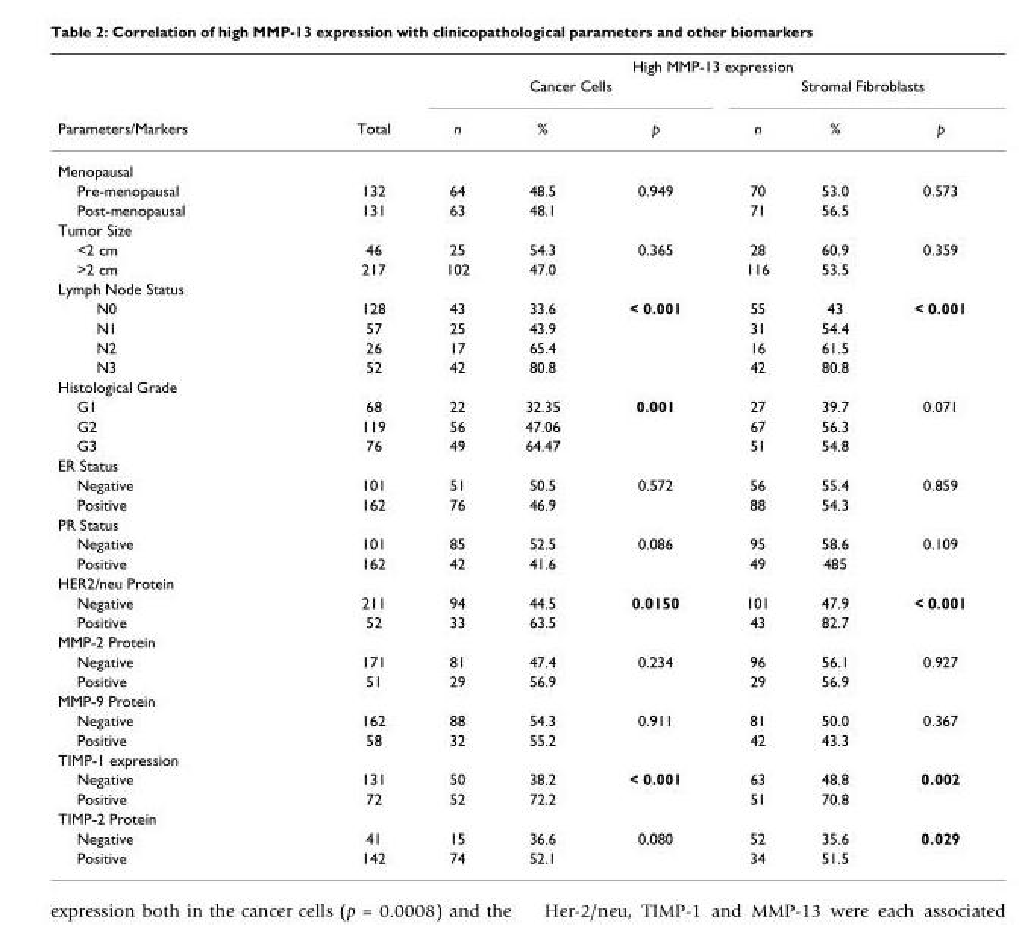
<table><thead><tr><td rowspan="3">Parameters/Markers</td><td rowspan="3">Total</td><td colspan="6">High MMP-13 expression</td></tr><tr><td colspan="3">Cancer Cells</td><td colspan="3">Stromal Fibroblasts</td></tr><tr><td>n</td><td>%</td><td>p</td><td>n</td><td>%</td><td>p</td></tr></thead><tbody><tr><td colspan="8">Menopausal</td></tr><tr><td>Pre-menopausal</td><td>132</td><td>64</td><td>48.5</td><td>0.949</td><td>70</td><td>53.0</td><td>0.573</td></tr><tr><td>Post-menopausal</td><td>131</td><td>63</td><td>48.1</td><td></td><td>71</td><td>56.5</td><td></td></tr><tr><td colspan="8">Tumor Size</td></tr><tr><td>&lt;2 cm</td><td>46</td><td>25</td><td>54.3</td><td>0.365</td><td>28</td><td>60.9</td><td>0.359</td></tr><tr><td>&gt;2 cm</td><td>217</td><td>102</td><td>47.0</td><td></td><td>116</td><td>53.5</td><td></td></tr><tr><td colspan="8">Lymph Node Status</td></tr><tr><td>N0</td><td>128</td><td>43</td><td>33.6</td><td>&lt; 0.001</td><td>55</td><td>43</td><td>&lt; 0.001</td></tr><tr><td>N1</td><td>57</td><td>25</td><td>43.9</td><td></td><td>31</td><td>54.4</td><td></td></tr><tr><td>N2</td><td>26</td><td>17</td><td>65.4</td><td></td><td>16</td><td>61.5</td><td></td></tr><tr><td>N3</td><td>52</td><td>42</td><td>80.8</td><td></td><td>42</td><td>80.8</td><td></td></tr><tr><td colspan="8">Histological Grade</td></tr><tr><td>G1</td><td>68</td><td>22</td><td>32.35</td><td>0.001</td><td>27</td><td>39.7</td><td>0.071</td></tr><tr><td>G2</td><td>119</td><td>56</td><td>47.06</td><td></td><td>67</td><td>56.3</td><td></td></tr><tr><td>G3</td><td>76</td><td>49</td><td>64.47</td><td></td><td>51</td><td>54.8</td><td></td></tr><tr><td colspan="8">ER Status</td></tr><tr><td>Negative</td><td>101</td><td>51</td><td>50.5</td><td>0.572</td><td>56</td><td>55.4</td><td>0.859</td></tr><tr><td>Positive</td><td>162</td><td>76</td><td>46.9</td><td></td><td>88</td><td>54.3</td><td></td></tr><tr><td colspan="8">PR Status</td></tr><tr><td>Negative</td><td>101</td><td>85</td><td>52.5</td><td>0.086</td><td>95</td><td>58.6</td><td>0.109</td></tr><tr><td>Positive</td><td>162</td><td>42</td><td>41.6</td><td></td><td>49</td><td>485</td><td></td></tr><tr><td colspan="8">HER2/neu Protein</td></tr><tr><td>Negative</td><td>211</td><td>94</td><td>44.5</td><td>0.0150</td><td>101</td><td>47.9</td><td>&lt; 0.001</td></tr><tr><td>Positive</td><td>52</td><td>33</td><td>63.5</td><td></td><td>43</td><td>82.7</td><td></td></tr><tr><td colspan="8">MMP-2 Protein</td></tr><tr><td>Negative</td><td>171</td><td>81</td><td>47.4</td><td>0.234</td><td>96</td><td>56.1</td><td>0.927</td></tr><tr><td>Positive</td><td>51</td><td>29</td><td>56.9</td><td></td><td>29</td><td>56.9</td><td></td></tr><tr><td colspan="8">MMP-9 Protein</td></tr><tr><td>Negative</td><td>162</td><td>88</td><td>54.3</td><td>0.911</td><td>81</td><td>50.0</td><td>0.367</td></tr><tr><td>Positive</td><td>58</td><td>32</td><td>55.2</td><td></td><td>42</td><td>43.3</td><td></td></tr><tr><td colspan="8">TIMP-1 expression</td></tr><tr><td>Negative</td><td>131</td><td>50</td><td>38.2</td><td>&lt; 0.001</td><td>63</td><td>48.8</td><td>0.002</td></tr><tr><td>Positive</td><td>72</td><td>52</td><td>72.2</td><td></td><td>51</td><td>70.8</td><td></td></tr><tr><td colspan="8">TIMP-2 Protein</td></tr><tr><td>Negative</td><td>41</td><td>15</td><td>36.6</td><td>0.080</td><td>52</td><td>35.6</td><td>0.029</td></tr><tr><td>Positive</td><td>142</td><td>74</td><td>52.1</td><td></td><td>34</td><td>51.5</td><td></td></tr></tbody></table>